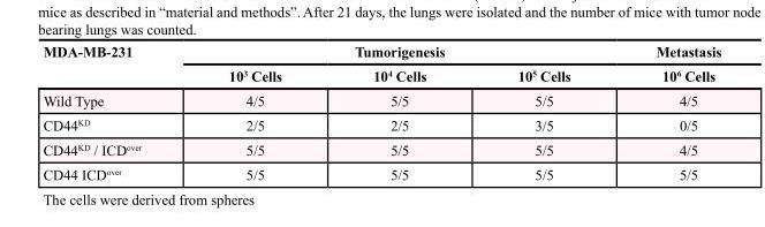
<table><thead><tr><td rowspan="2">MDA-MB-231</td><td colspan="3">Tumorigenesis</td><td rowspan="2">Metastasis 10<sup>6</sup> Cells</td></tr><tr><td>10<sup>3</sup> Cells</td><td>10<sup>4</sup> Cells</td><td>10<sup>5</sup> Cells</td></tr></thead><tbody><tr><td>Wild Type</td><td>4/5</td><td>5/5</td><td>5/5</td><td>4/5</td></tr><tr><td>CD44<sup>KD</sup></td><td>2/5</td><td>2/5</td><td>3/5</td><td>0/5</td></tr><tr><td>CD44<sup>KD</sup> / ICD<sup>over</sup></td><td>5/5</td><td>5/5</td><td>5/5</td><td>4/5</td></tr><tr><td>CD44 ICD<sup>over</sup></td><td>5/5</td><td>5/5</td><td>5/5</td><td>5/5</td></tr></tbody></table>